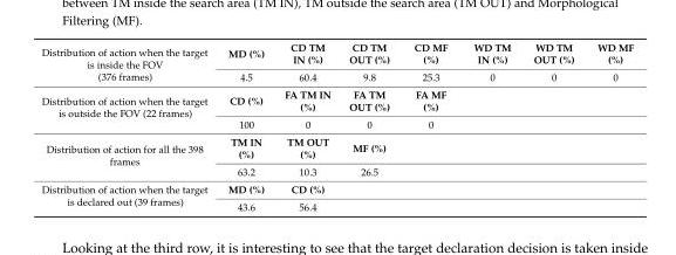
<table><tbody><tr><td rowspan="2">Distribution of action when the target is inside the FOV (376 frames)</td><td>MD (%)</td><td>CD TM IN (%)</td><td>CD TM OUT (%)</td><td>CD MF (%)</td><td>WD TM IN (%)</td><td>WD TM OUT (%)</td><td>WD MF (%)</td></tr><tr><td>4.5</td><td>60.4</td><td>9.8</td><td>25.3</td><td>0</td><td>0</td><td>0</td></tr><tr><td rowspan="2">Distribution of action when the target is outside the FOV (22 frames)</td><td>CD (%)</td><td>FA TM IN (%)</td><td>FA TM OUT (%)</td><td>FA MF (%)</td><td></td><td></td><td></td></tr><tr><td>100</td><td>0</td><td>0</td><td>0</td><td></td><td></td><td></td></tr><tr><td rowspan="2">Distribution of action for all the 398 frames</td><td>TM IN (%)</td><td>TM OUT (%)</td><td>MF (%)</td><td></td><td></td><td></td><td></td></tr><tr><td>63.2</td><td>10.3</td><td>26.5</td><td></td><td></td><td></td><td></td></tr><tr><td rowspan="2">Distribution of action when the target is declared out (39 frames)</td><td>MD (%)</td><td>CD (%)</td><td></td><td></td><td></td><td></td><td></td></tr><tr><td>43.6</td><td>56.4</td><td></td><td></td><td></td><td></td><td></td></tr></tbody></table>